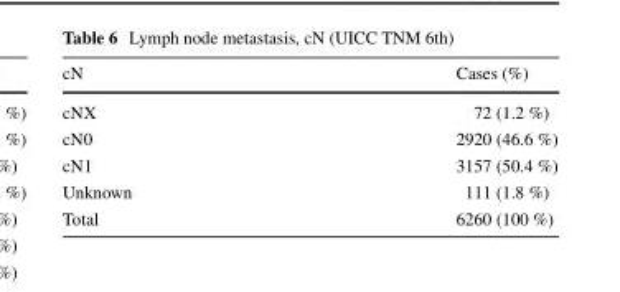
<table><thead><tr><td>cN</td><td>Cases (%)</td></tr></thead><tbody><tr><td>cNX</td><td>72 (1.2 %)</td></tr><tr><td>cN0</td><td>2920 (46.6 %)</td></tr><tr><td>cN1</td><td>3157 (50.4 %)</td></tr><tr><td>Unknown</td><td>111 (1.8 %)</td></tr><tr><td>Total</td><td>6260 (100 %)</td></tr></tbody></table>